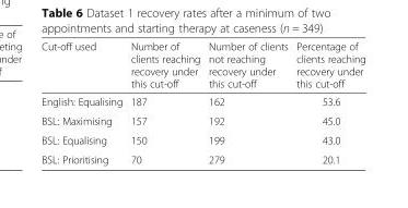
<table><thead><tr><td>Cut-off used</td><td>Number of clients reaching recovery under this cut-off</td><td>Number of clients not reaching recovery under this cut-off</td><td>Percentage of clients reaching recovery under this cut-off</td></tr></thead><tbody><tr><td>English: Equalising</td><td>187</td><td>162</td><td>53.6</td></tr><tr><td>BSL: Maximising</td><td>157</td><td>192</td><td>45.0</td></tr><tr><td>BSL: Equalising</td><td>150</td><td>199</td><td>43.0</td></tr><tr><td>BSL: Prioritising</td><td>70</td><td>279</td><td>20.1</td></tr></tbody></table>